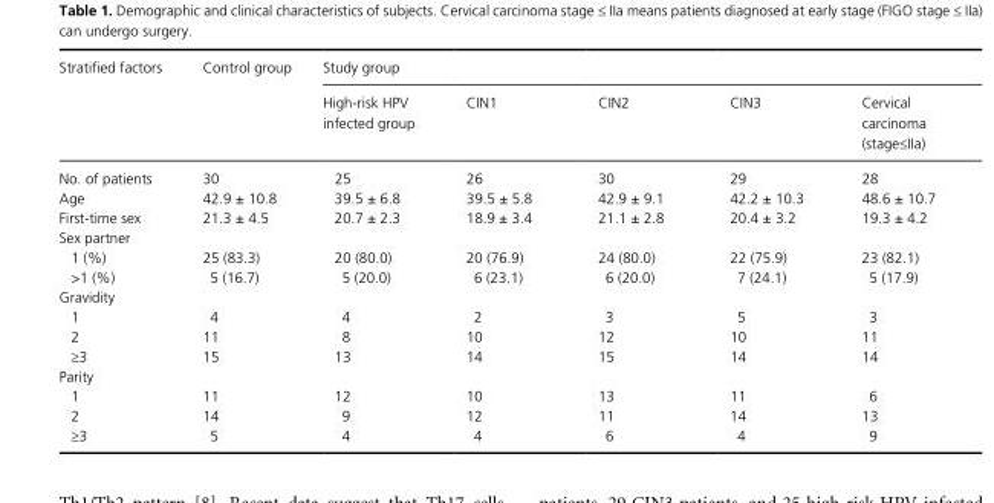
<table><thead><tr><td rowspan="2">Stratified factors</td><td rowspan="2">Control group</td><td colspan="5">Study group</td></tr><tr><td>High- risk HPV infected group</td><td>CIN1</td><td>CIN2</td><td>CIN3</td><td>Cervical carcinoma (stage≤IIa)</td></tr></thead><tbody><tr><td>No. of patients</td><td>30</td><td>25</td><td>26</td><td>30</td><td>29</td><td>28</td></tr><tr><td>Age</td><td>42.9 ± 10.8</td><td>39.5 ± 6.8</td><td>39.5 ± 5.8</td><td>42.9 ± 9.1</td><td>42.2 ± 10.3</td><td>48.6 ± 10.7</td></tr><tr><td>First- time sex</td><td>21.3 ± 4.5</td><td>20.7 ± 2.3</td><td>18.9 ± 3.4</td><td>21.1 ± 2.8</td><td>20.4 ± 3.2</td><td>19.3 ± 4.2</td></tr><tr><td colspan="7">Sex partner</td></tr><tr><td>1 (%)</td><td>25 (83.3)</td><td>20 (80.0)</td><td>20 (76.9)</td><td>24 (80.0)</td><td>22 (75.9)</td><td>23 (82.1)</td></tr><tr><td>&gt;1 (%)</td><td>5 (16.7)</td><td>5 (20.0)</td><td>6 (23.1)</td><td>6 (20.0)</td><td>7 (24.1)</td><td>5 (17.9)</td></tr><tr><td colspan="7">Gravidity</td></tr><tr><td>1</td><td>4</td><td>4</td><td>2</td><td>3</td><td>5</td><td>3</td></tr><tr><td>2</td><td>11</td><td>8</td><td>10</td><td>12</td><td>10</td><td>11</td></tr><tr><td>≥3</td><td>15</td><td>13</td><td>14</td><td>15</td><td>14</td><td>14</td></tr><tr><td colspan="7">Parity</td></tr><tr><td>1</td><td>11</td><td>12</td><td>10</td><td>13</td><td>11</td><td>6</td></tr><tr><td>2</td><td>14</td><td>9</td><td>12</td><td>11</td><td>14</td><td>13</td></tr><tr><td>≥3</td><td>5</td><td>4</td><td>4</td><td>6</td><td>4</td><td>9</td></tr></tbody></table>